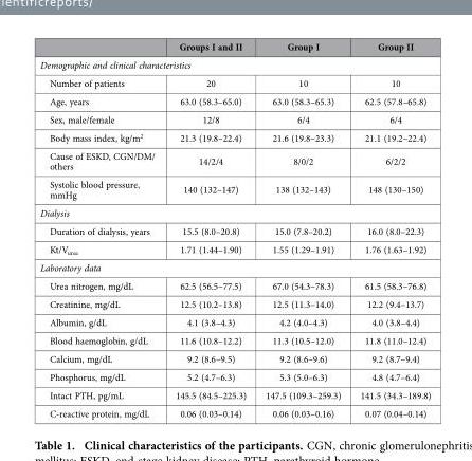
<table><thead><tr><td></td><td>Groups I and II</td><td>Group I</td><td>Group II</td></tr></thead><tbody><tr><td colspan="4">Demographic and clinical characteristics</td></tr><tr><td>Number of patients</td><td>20</td><td>10</td><td>10</td></tr><tr><td>Age, years</td><td>63.0 (58.3–65.0)</td><td>63.0 (58.3–65.3)</td><td>62.5 (57.8–65.8)</td></tr><tr><td>Sex, male/female</td><td>12/8</td><td>6/4</td><td>6/4</td></tr><tr><td>Body mass index, kg/m<sup>2</sup></td><td>21.3 (19.8–22.4)</td><td>21.6 (19.8–23.3)</td><td>21.1 (19.2–22.4)</td></tr><tr><td>Cause of ESKD, CGN/DM/ others</td><td>14/2/4</td><td>8/0/2</td><td>6/2/2</td></tr><tr><td>Systolic blood pressure, mmHg</td><td>140 (132–147)</td><td>138 (132–143)</td><td>148 (130–150)</td></tr><tr><td colspan="4">Dialysis</td></tr><tr><td>Duration of dialysis, years</td><td>15.5 (8.0–20.8)</td><td>15.0 (7.8–20.2)</td><td>16.0 (8.0–22.3)</td></tr><tr><td>Kt/V<sub>urea</sub></td><td>1.71 (1.44–1.90)</td><td>1.55 (1.29–1.91)</td><td>1.76 (1.63–1.92)</td></tr><tr><td colspan="4">Laboratory data</td></tr><tr><td>Urea nitrogen, mg/dL</td><td>62.5 (56.5–77.5)</td><td>67.0 (54.3–78.3)</td><td>61.5 (58.3–76.8)</td></tr><tr><td>Creatinine, mg/dL</td><td>12.5 (10.2–13.8)</td><td>12.5 (11.3–14.0)</td><td>12.2 (9.4–13.7)</td></tr><tr><td>Albumin, g/dL</td><td>4.1 (3.8–4.3)</td><td>4.2 (4.0–4.3)</td><td>4.0 (3.8–4.4)</td></tr><tr><td>Blood haemoglobin, g/dL</td><td>11.6 (10.8–12.2)</td><td>11.3 (10.5–12.0)</td><td>11.8 (11.0–12.4)</td></tr><tr><td>Calcium, mg/dL</td><td>9.2 (8.6–9.5)</td><td>9.2 (8.6–9.6)</td><td>9.2 (8.7–9.4)</td></tr><tr><td>Phosphorus, mg/dL</td><td>5.2 (4.7–6.3)</td><td>5.3 (5.0–6.3)</td><td>4.8 (4.7–6.4)</td></tr><tr><td>Intact PTH, pg/mL</td><td>145.5 (84.5–225.3)</td><td>147.5 (109.3–259.3)</td><td>141.5 (34.3–189.8)</td></tr><tr><td>C-reactive protein, mg/dL</td><td>0.06 (0.03–0.14)</td><td>0.06 (0.03–0.16)</td><td>0.07 (0.04–0.14)</td></tr></tbody></table>